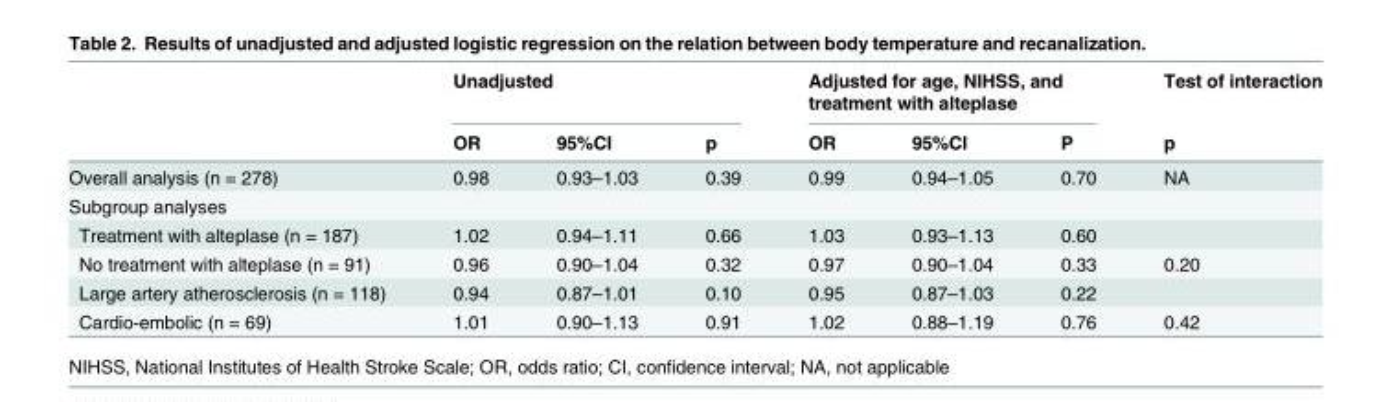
<table><thead><tr><td rowspan="2"></td><td colspan="3">Unadjusted</td><td colspan="3">Adjusted for age, NIHSS, and treatment with alteplase</td><td rowspan="2">Test of interaction p</td></tr><tr><td>OR</td><td>95%CI</td><td>p</td><td>OR</td><td>95%CI</td><td>P</td></tr></thead><tbody><tr><td>Overall analysis (n = 278)</td><td>0.98</td><td>0.93–1.03</td><td>0.39</td><td>0.99</td><td>0.94–1.05</td><td>0.70</td><td>NA</td></tr><tr><td colspan="8">Subgroup analyses</td></tr><tr><td>Treatment with alteplase (n = 187)</td><td>1.02</td><td>0.94–1.11</td><td>0.66</td><td>1.03</td><td>0.93–1.13</td><td>0.60</td><td></td></tr><tr><td>No treatment with alteplase (n = 91)</td><td>0.96</td><td>0.90–1.04</td><td>0.32</td><td>0.97</td><td>0.90–1.04</td><td>0.33</td><td>0.20</td></tr><tr><td>Large artery atherosclerosis (n = 118)</td><td>0.94</td><td>0.87–1.01</td><td>0.10</td><td>0.95</td><td>0.87–1.03</td><td colspan="2">0.22</td></tr><tr><td>Cardio-embolic (n = 69)</td><td>1.01</td><td>0.90–1.13</td><td>0.91</td><td>1.02</td><td>0.88–1.19</td><td>0.76</td><td>0.42</td></tr></tbody></table>